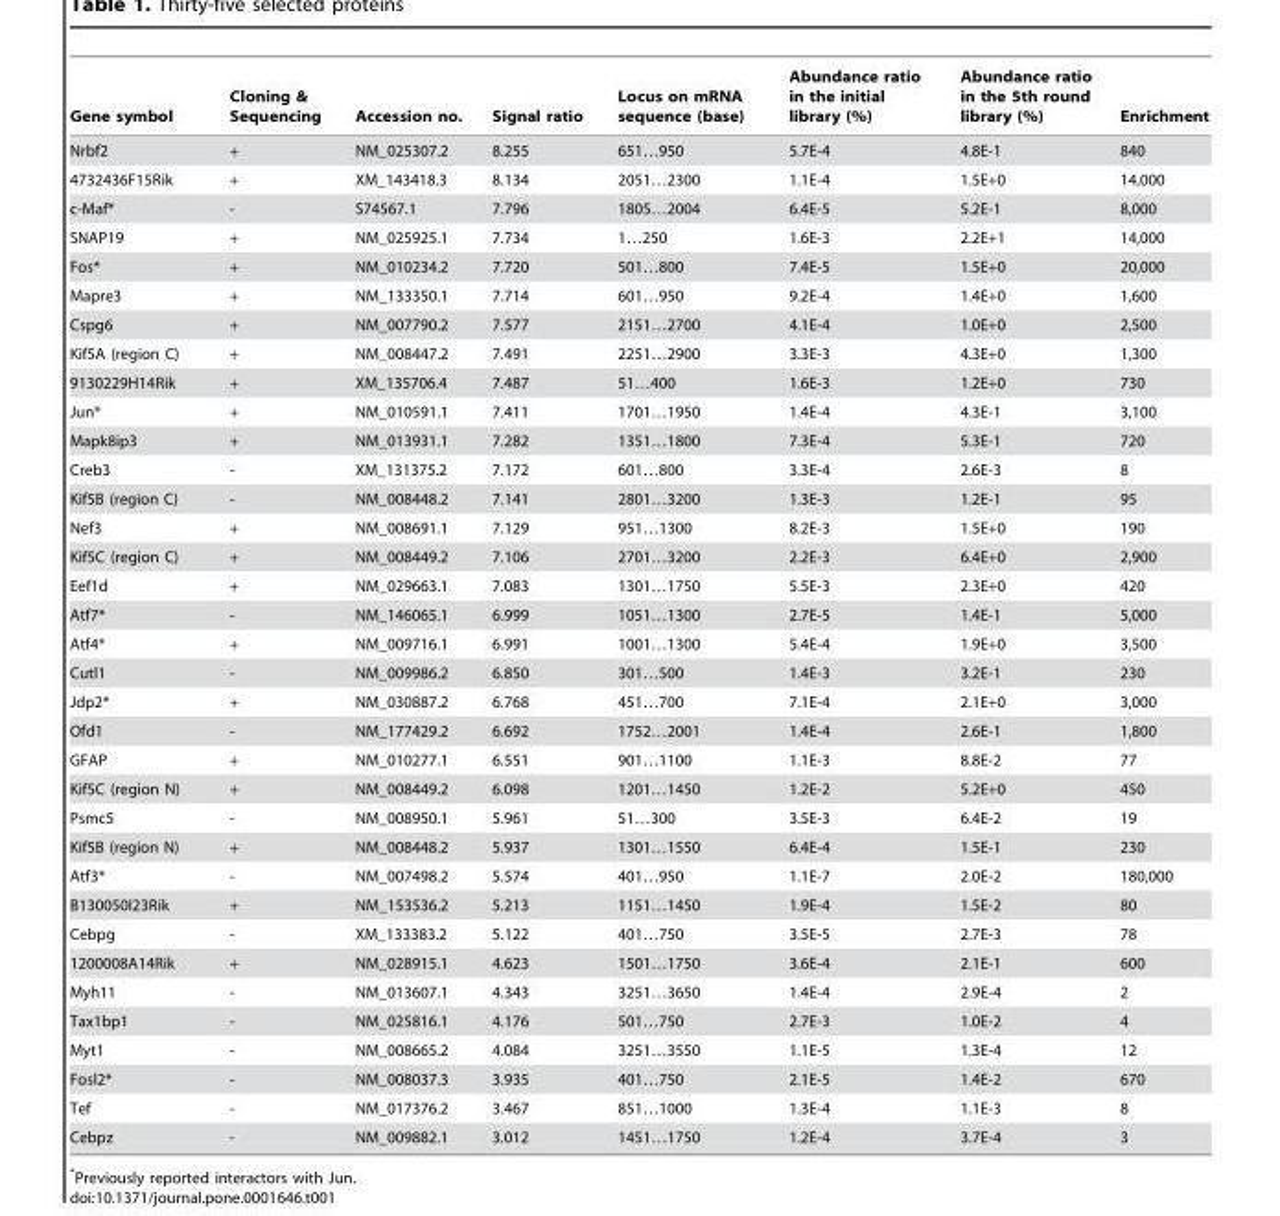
<table><thead><tr><td>Gene symbol</td><td>Cloning &amp; Sequencing</td><td>Accession no.</td><td>Signal ratio</td><td>Locus on mRNA sequence (base)</td><td>Abundance ratio in the initial library (%)</td><td>Abundance ratio in the 5th round library (%)</td><td>Enrichment</td></tr></thead><tbody><tr><td>Nrbf2</td><td>+</td><td>NM_025307.2</td><td>8.255</td><td>651…950</td><td>5.7E-4</td><td>4.8E-1</td><td>840</td></tr><tr><td>4732436F15Rik</td><td>+</td><td>XM_143418.3</td><td>8.134</td><td>2051…2300</td><td>1.1E-4</td><td>1.5E+0</td><td>14,000</td></tr><tr><td>c-Maf*</td><td>-</td><td>S74567.1</td><td>7.796</td><td>1805…2004</td><td>6.4E-5</td><td>5.2E-1</td><td>8,000</td></tr><tr><td>SNAP19</td><td>+</td><td>NM_025925.1</td><td>7.734</td><td>1…250</td><td>1.6E-3</td><td>2.2E+1</td><td>14,000</td></tr><tr><td>Fos*</td><td>+</td><td>NM_010234.2</td><td>7.720</td><td>501…800</td><td>7.4E-5</td><td>1.5E+0</td><td>20,000</td></tr><tr><td>Mapre3</td><td>+</td><td>NM_133350.1</td><td>7.714</td><td>601…950</td><td>9.2E-4</td><td>1.4E+0</td><td>1,600</td></tr><tr><td>Cspg6</td><td>+</td><td>NM_007790.2</td><td>7.577</td><td>2151…2700</td><td>4.1E-4</td><td>1.0E+0</td><td>2,500</td></tr><tr><td>Kif5A (region C)</td><td>+</td><td>NM_008447.2</td><td>7.491</td><td>2251…2900</td><td>3.3E-3</td><td>4.3E+0</td><td>1,300</td></tr><tr><td>9130229H14Rik</td><td>+</td><td>XM_135706.4</td><td>7.487</td><td>51…400</td><td>1.6E-3</td><td>1.2E+0</td><td>730</td></tr><tr><td>Jun*</td><td>+</td><td>NM_010591.1</td><td>7.411</td><td>1701…1950</td><td>1.4E-4</td><td>4.3E-1</td><td>3,100</td></tr><tr><td>Mapk8ip3</td><td>+</td><td>NM_013931.1</td><td>7.282</td><td>1351…1800</td><td>7.3E-4</td><td>5.3E-1</td><td>720</td></tr><tr><td>Creb3</td><td>-</td><td>XM_131375.2</td><td>7.172</td><td>601…800</td><td>3.3E-4</td><td>2.6E-3</td><td>8</td></tr><tr><td>Kif5B (region C)</td><td>-</td><td>NM_008448.2</td><td>7.141</td><td>2801…3200</td><td>1.3E-3</td><td>1.2E-1</td><td>95</td></tr><tr><td>Nef3</td><td>+</td><td>NM_008691.1</td><td>7.129</td><td>951…1300</td><td>8.2E-3</td><td>1.5E+0</td><td>190</td></tr><tr><td>Kif5C (region C)</td><td>+</td><td>NM_008449.2</td><td>7.106</td><td>2701…3200</td><td>2.2E-3</td><td>6.4E+0</td><td>2,900</td></tr><tr><td>Eef1d</td><td>+</td><td>NM_029663.1</td><td>7.083</td><td>1301…1750</td><td>5.5E-3</td><td>2.3E+0</td><td>420</td></tr><tr><td>Atf7*</td><td>-</td><td>NM_146065.1</td><td>6.999</td><td>1051…1300</td><td>2.7E-5</td><td>1.4E-1</td><td>5,000</td></tr><tr><td>Atf4*</td><td>+</td><td>NM_009716.1</td><td>6.991</td><td>1001…1300</td><td>5.4E-4</td><td>1.9E+0</td><td>3,500</td></tr><tr><td>Cutl1</td><td>-</td><td>NM_009986.2</td><td>6.850</td><td>301…500</td><td>1.4E-3</td><td>3.2E-1</td><td>230</td></tr><tr><td>Jdp2*</td><td>+</td><td>NM_030887.2</td><td>6.768</td><td>451…700</td><td>7.1E-4</td><td>2.1E+0</td><td>3,000</td></tr><tr><td>Ofd1</td><td>-</td><td>NM_177429.2</td><td>6.692</td><td>1752…2001</td><td>1.4E-4</td><td>2.6E-1</td><td>1,800</td></tr><tr><td>GFAP</td><td>+</td><td>NM_010277.1</td><td>6.551</td><td>901…1100</td><td>1.1E-3</td><td>8.8E-2</td><td>77</td></tr><tr><td>Kif5C (region N)</td><td>+</td><td>NM_008449.2</td><td>6.098</td><td>1201…1450</td><td>1.2E-2</td><td>5.2E+0</td><td>450</td></tr><tr><td>Psmc5</td><td>-</td><td>NM_008950.1</td><td>5.961</td><td>51…300</td><td>3.5E-3</td><td>6.4E-2</td><td>19</td></tr><tr><td>Kif5B (region N)</td><td>+</td><td>NM_008448.2</td><td>5.937</td><td>1301…1550</td><td>6.4E-4</td><td>1.5E-1</td><td>230</td></tr><tr><td>Atf3*</td><td>-</td><td>NM_007498.2</td><td>5.574</td><td>401…950</td><td>1.1E-7</td><td>2.0E-2</td><td>180,000</td></tr><tr><td>B130050I23Rik</td><td>+</td><td>NM_153536.2</td><td>5.213</td><td>1151…1450</td><td>1.9E-4</td><td>1.5E-2</td><td>80</td></tr><tr><td>Cebpg</td><td>-</td><td>XM_133383.2</td><td>5.122</td><td>401…750</td><td>3.5E-5</td><td>2.7E-3</td><td>78</td></tr><tr><td>1200008A14Rik</td><td>+</td><td>NM_028915.1</td><td>4.623</td><td>1501…1750</td><td>3.6E-4</td><td>2.1E-1</td><td>600</td></tr><tr><td>Myh11</td><td>-</td><td>NM_013607.1</td><td>4.343</td><td>3251…3650</td><td>1.4E-4</td><td>2.9E-4</td><td>2</td></tr><tr><td>Tax1bp1</td><td>-</td><td>NM_025816.1</td><td>4.176</td><td>501…750</td><td>2.7E-3</td><td>1.0E-2</td><td>4</td></tr><tr><td>Myt1</td><td>-</td><td>NM_008665.2</td><td>4.084</td><td>3251…3550</td><td>1.1E-5</td><td>1.3E-4</td><td>12</td></tr><tr><td>Fosl2*</td><td>-</td><td>NM_008037.3</td><td>3.935</td><td>401…750</td><td>2.1E-5</td><td>1.4E-2</td><td>670</td></tr><tr><td>Tef</td><td>-</td><td>NM_017376.2</td><td>3.467</td><td>851…1000</td><td>1.3E-4</td><td>1.1E-3</td><td>8</td></tr><tr><td>Cebpz</td><td>-</td><td>NM_009882.1</td><td>3.012</td><td>1451…1750</td><td>1.2E-4</td><td>3.7E-4</td><td>3</td></tr></tbody></table>